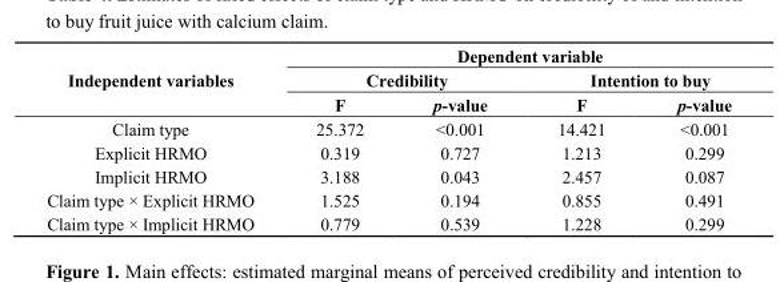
<table><thead><tr><td rowspan="3">Independent variables</td><td colspan="4">Dependent variable</td></tr><tr><td colspan="2">Credibility</td><td colspan="2">Intention to buy</td></tr><tr><td>F</td><td>p-value</td><td>F</td><td>p-value</td></tr></thead><tbody><tr><td>Claim type</td><td>25.372</td><td>&lt;0.001</td><td>14.421</td><td>&lt;0.001</td></tr><tr><td>Explicit HRMO</td><td>0.319</td><td>0.727</td><td>1.213</td><td>0.299</td></tr><tr><td>Implicit HRMO</td><td>3.188</td><td>0.043</td><td>2.457</td><td>0.087</td></tr><tr><td>Claim type × Explicit HRMO</td><td>1.525</td><td>0.194</td><td>0.855</td><td>0.491</td></tr><tr><td>Claim type × Implicit HRMO</td><td>0.779</td><td>0.539</td><td>1.228</td><td>0.299</td></tr></tbody></table>